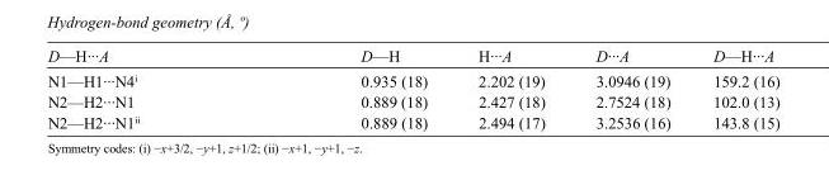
<table><tbody><tr><td>D—H···A</td><td>D—H</td><td>H···A</td><td>D···A</td><td>D—H···A</td></tr><tr><td>N1—H1···N4<sup>i</sup></td><td>0.935 (18)</td><td>2.202 (19)</td><td>3.0946 (19)</td><td>159.2 (16)</td></tr><tr><td>N2—H2···N1</td><td>0.889 (18)</td><td>2.427 (18)</td><td>2.7524 (18)</td><td>102.0 (13)</td></tr><tr><td>N2—H2···N1<sup>ii</sup></td><td>0.889 (18)</td><td>2.494 (17)</td><td>3.2536 (16)</td><td>143.8 (15)</td></tr></tbody></table>